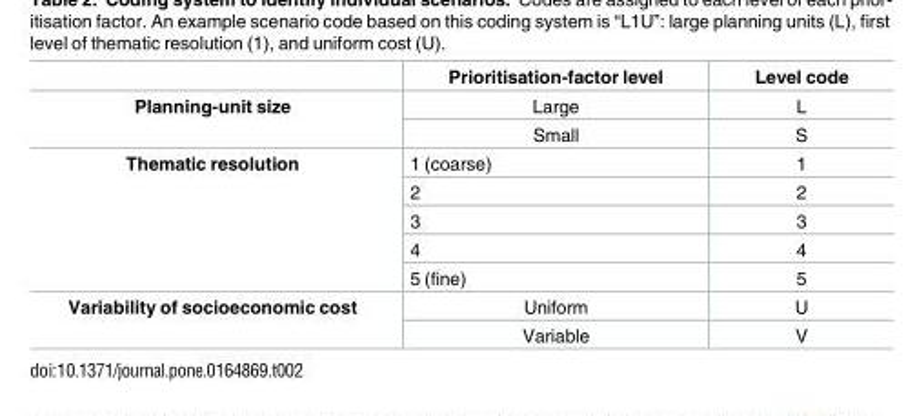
<table><thead><tr><td></td><td>Prioritisation-factor level</td><td>Level code</td></tr></thead><tbody><tr><td rowspan="2">Planning-unit size</td><td>Large</td><td>L</td></tr><tr><td>Small</td><td>S</td></tr><tr><td rowspan="5">Thematic resolution</td><td>1 (coarse)</td><td>1</td></tr><tr><td>2</td><td>2</td></tr><tr><td>3</td><td>3</td></tr><tr><td>4</td><td>4</td></tr><tr><td>5 (fine)</td><td>5</td></tr><tr><td rowspan="2">Variability of socioeconomic cost</td><td>Uniform</td><td>U</td></tr><tr><td>Variable</td><td>V</td></tr></tbody></table>